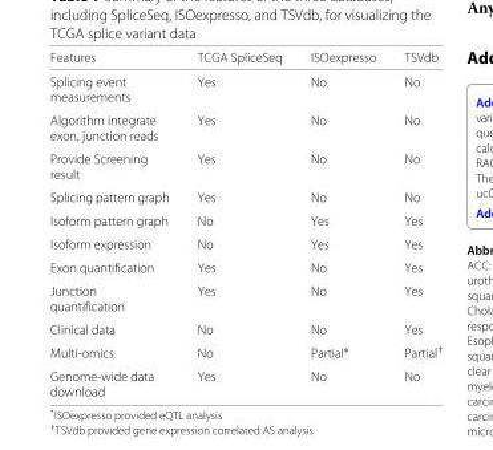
<table><thead><tr><td>Features</td><td>TCGA SpliceSeq</td><td>ISOexpresso</td><td>TSVdb</td></tr></thead><tbody><tr><td>Splicing event measurements</td><td>Yes</td><td>No</td><td>No</td></tr><tr><td>Algorithm integrate exon, junction reads</td><td>Yes</td><td>No</td><td>No</td></tr><tr><td>Provide Screening result</td><td>Yes</td><td>No</td><td>No</td></tr><tr><td>Splicing pattern graph</td><td>Yes</td><td>No</td><td>No</td></tr><tr><td>Isoform pattern graph</td><td>No</td><td>Yes</td><td>Yes</td></tr><tr><td>Isoform expression</td><td>No</td><td>Yes</td><td>Yes</td></tr><tr><td>Exon quantification</td><td>Yes</td><td>No</td><td>Yes</td></tr><tr><td>Junction quantification</td><td>Yes</td><td>No</td><td>Yes</td></tr><tr><td>Clinical data</td><td>No</td><td>No</td><td>Yes</td></tr><tr><td>Multi-omics</td><td>No</td><td>Partial∗</td><td>Partial<sup>†</sup></td></tr><tr><td>Genome-wide data download</td><td>Yes</td><td>No</td><td>No</td></tr></tbody></table>